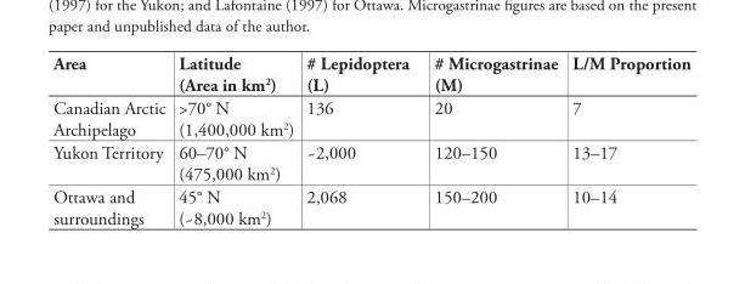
<table><thead><tr><td>Area</td><td>Latitude (Area in km2)</td><td># Lepidoptera (L)</td><td># Microgastrinae (M)</td><td>L/M Proportion</td></tr></thead><tbody><tr><td>Canadian Arctic Archipelago</td><td>&gt;70° N (1,400,000 km2)</td><td>136</td><td>20</td><td>7</td></tr><tr><td>Yukon Territory</td><td>60–70° N (475,000 km2)</td><td>~2,000</td><td>120–150</td><td>13–17</td></tr><tr><td>Ottawa and surroundings</td><td>45° N (~8,000 km2)</td><td>2,068</td><td>150–200</td><td>10–14</td></tr></tbody></table>